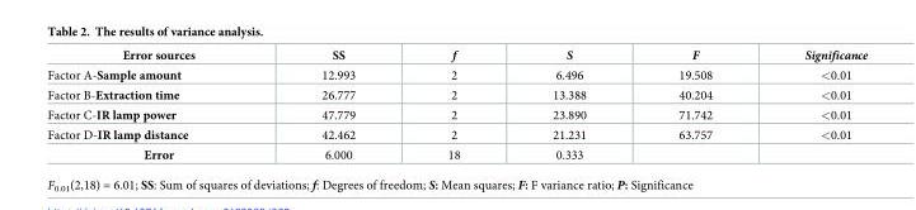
<table><thead><tr><td>Error sources</td><td>SS</td><td>f</td><td>S</td><td>F</td><td>Significance</td></tr></thead><tbody><tr><td>Factor A-Sample amount</td><td>12.993</td><td>2</td><td>6.496</td><td>19.508</td><td>&lt;0.01</td></tr><tr><td>Factor B-Extraction time</td><td>26.777</td><td>2</td><td>13.388</td><td>40.204</td><td>&lt;0.01</td></tr><tr><td>Factor C-IR lamp power</td><td>47.779</td><td>2</td><td>23.890</td><td>71.742</td><td>&lt;0.01</td></tr><tr><td>Factor D-IR lamp distance</td><td>42.462</td><td>2</td><td>21.231</td><td>63.757</td><td>&lt;0.01</td></tr><tr><td>Error</td><td>6.000</td><td>18</td><td>0.333</td><td></td><td></td></tr></tbody></table>